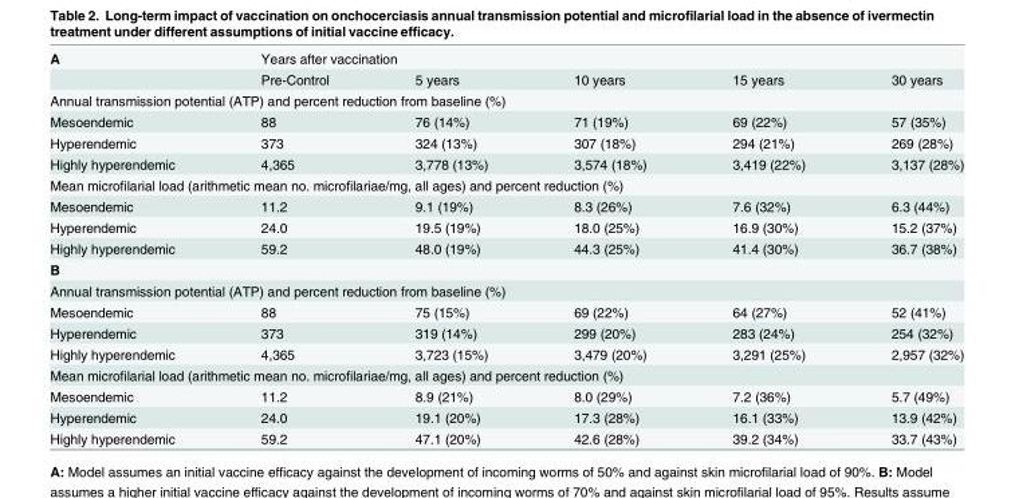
<table><tbody><tr><td rowspan="2">A</td><td colspan="5">Years after vaccination</td></tr><tr><td>Pre-Control</td><td>5 years</td><td>10 years</td><td>15 years</td><td>30 years</td></tr><tr><td colspan="6">Annual transmission potential (ATP) and percent reduction from baseline (%)</td></tr><tr><td>Mesoendemic</td><td>88</td><td>76 (14%)</td><td>71 (19%)</td><td>69 (22%)</td><td>57 (35%)</td></tr><tr><td>Hyperendemic</td><td>373</td><td>324 (13%)</td><td>307 (18%)</td><td>294 (21%)</td><td>269 (28%)</td></tr><tr><td>Highly hyperendemic</td><td>4,365</td><td>3,778 (13%)</td><td>3,574 (18%)</td><td>3,419 (22%)</td><td>3,137 (28%)</td></tr><tr><td colspan="6">Mean microfilarial load (arithmetic mean no. microfilariae/mg, all ages) and percent reduction (%)</td></tr><tr><td>Mesoendemic</td><td>11.2</td><td>9.1 (19%)</td><td>8.3 (26%)</td><td>7.6 (32%)</td><td>6.3 (44%)</td></tr><tr><td>Hyperendemic</td><td>24.0</td><td>19.5 (19%)</td><td>18.0 (25%)</td><td>16.9 (30%)</td><td>15.2 (37%)</td></tr><tr><td>Highly hyperendemic</td><td>59.2</td><td>48.0 (19%)</td><td>44.3 (25%)</td><td>41.4 (30%)</td><td>36.7 (38%)</td></tr><tr><td colspan="6">B</td></tr><tr><td colspan="6">Annual transmission potential (ATP) and percent reduction from baseline (%)</td></tr><tr><td>Mesoendemic</td><td>88</td><td>75 (15%)</td><td>69 (22%)</td><td>64 (27%)</td><td>52 (41%)</td></tr><tr><td>Hyperendemic</td><td>373</td><td>319 (14%)</td><td>299 (20%)</td><td>283 (24%)</td><td>254 (32%)</td></tr><tr><td>Highly hyperendemic</td><td>4,365</td><td>3,723 (15%)</td><td>3,479 (20%)</td><td>3,291 (25%)</td><td>2,957 (32%)</td></tr><tr><td colspan="6">Mean microfilarial load (arithmetic mean no. microfilariae/mg, all ages) and percent reduction (%)</td></tr><tr><td>Mesoendemic</td><td>11.2</td><td>8.9 (21%)</td><td>8.0 (29%)</td><td>7.2 (36%)</td><td>5.7 (49%)</td></tr><tr><td>Hyperendemic</td><td>24.0</td><td>19.1 (20%)</td><td>17.3 (28%)</td><td>16.1 (33%)</td><td>13.9 (42%)</td></tr><tr><td>Highly hyperendemic</td><td>59.2</td><td>47.1 (20%)</td><td>42.6 (28%)</td><td>39.2 (34%)</td><td>33.7 (43%)</td></tr></tbody></table>